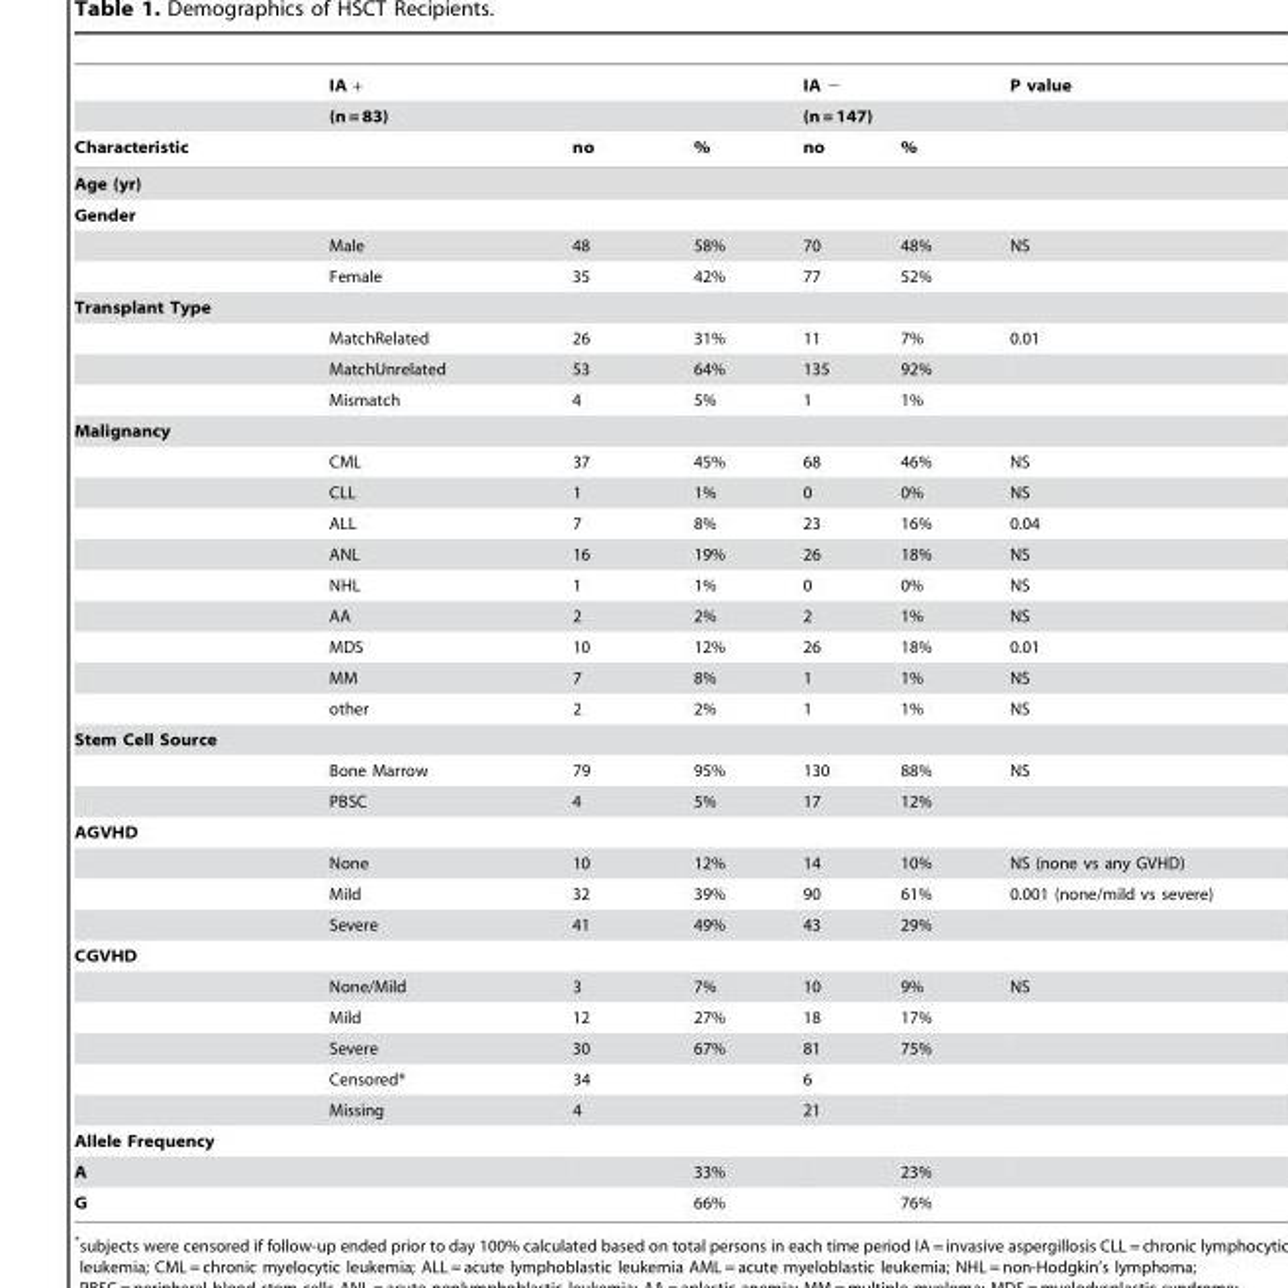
<table><thead><tr><td rowspan="3">Characteristic</td><td rowspan="2" colspan="3">IA + (n = 83)</td><td rowspan="2" colspan="2">IA − (n = 147)</td><td rowspan="3">P value</td></tr><tr></tr><tr><td></td><td>no</td><td>%</td><td>no</td><td>%</td></tr></thead><tbody><tr><td colspan="7">Age (yr)</td></tr><tr><td colspan="7">Gender</td></tr><tr><td></td><td>Male</td><td>48</td><td>58%</td><td>70</td><td>48%</td><td>NS</td></tr><tr><td></td><td>Female</td><td>35</td><td>42%</td><td>77</td><td>52%</td><td></td></tr><tr><td colspan="7">Transplant Type</td></tr><tr><td></td><td>MatchRelated</td><td>26</td><td>31%</td><td>11</td><td>7%</td><td>0.01</td></tr><tr><td></td><td>MatchUnrelated</td><td>53</td><td>64%</td><td>135</td><td>92%</td><td></td></tr><tr><td></td><td>Mismatch</td><td>4</td><td>5%</td><td>1</td><td>1%</td><td></td></tr><tr><td colspan="7">Malignancy</td></tr><tr><td></td><td>CML</td><td>37</td><td>45%</td><td>68</td><td>46%</td><td>NS</td></tr><tr><td></td><td>CLL</td><td>1</td><td>1%</td><td>0</td><td>0%</td><td>NS</td></tr><tr><td></td><td>ALL</td><td>7</td><td>8%</td><td>23</td><td>16%</td><td>0.04</td></tr><tr><td></td><td>ANL</td><td>16</td><td>19%</td><td>26</td><td>18%</td><td>NS</td></tr><tr><td></td><td>NHL</td><td>1</td><td>1%</td><td>0</td><td>0%</td><td>NS</td></tr><tr><td></td><td>AA</td><td>2</td><td>2%</td><td>2</td><td>1%</td><td>NS</td></tr><tr><td></td><td>MDS</td><td>10</td><td>12%</td><td>26</td><td>18%</td><td>0.01</td></tr><tr><td></td><td>MM</td><td>7</td><td>8%</td><td>1</td><td>1%</td><td>NS</td></tr><tr><td></td><td>other</td><td>2</td><td>2%</td><td>1</td><td>1%</td><td>NS</td></tr><tr><td colspan="7">Stem Cell Source</td></tr><tr><td></td><td>Bone Marrow</td><td>79</td><td>95%</td><td>130</td><td>88%</td><td>NS</td></tr><tr><td></td><td>PBSC</td><td>4</td><td>5%</td><td>17</td><td>12%</td><td></td></tr><tr><td colspan="7">AGVHD</td></tr><tr><td></td><td>None</td><td>10</td><td>12%</td><td>14</td><td>10%</td><td>NS (none vs any GVHD)</td></tr><tr><td></td><td>Mild</td><td>32</td><td>39%</td><td>90</td><td>61%</td><td>0.001 (none/mild vs severe)</td></tr><tr><td></td><td>Severe</td><td>41</td><td>49%</td><td>43</td><td>29%</td><td></td></tr><tr><td colspan="7">CGVHD</td></tr><tr><td></td><td>None/Mild</td><td>3</td><td>7%</td><td>10</td><td>9%</td><td>NS</td></tr><tr><td></td><td>Mild</td><td>12</td><td>27%</td><td>18</td><td>17%</td><td></td></tr><tr><td></td><td>Severe</td><td>30</td><td>67%</td><td>81</td><td>75%</td><td></td></tr><tr><td></td><td>Censored*</td><td>34</td><td></td><td>6</td><td></td><td></td></tr><tr><td></td><td>Missing</td><td>4</td><td></td><td>21</td><td></td><td></td></tr><tr><td colspan="7">Allele Frequency</td></tr><tr><td>A</td><td></td><td></td><td>33%</td><td></td><td>23%</td><td></td></tr><tr><td>G</td><td></td><td></td><td>66%</td><td></td><td>76%</td><td></td></tr></tbody></table>